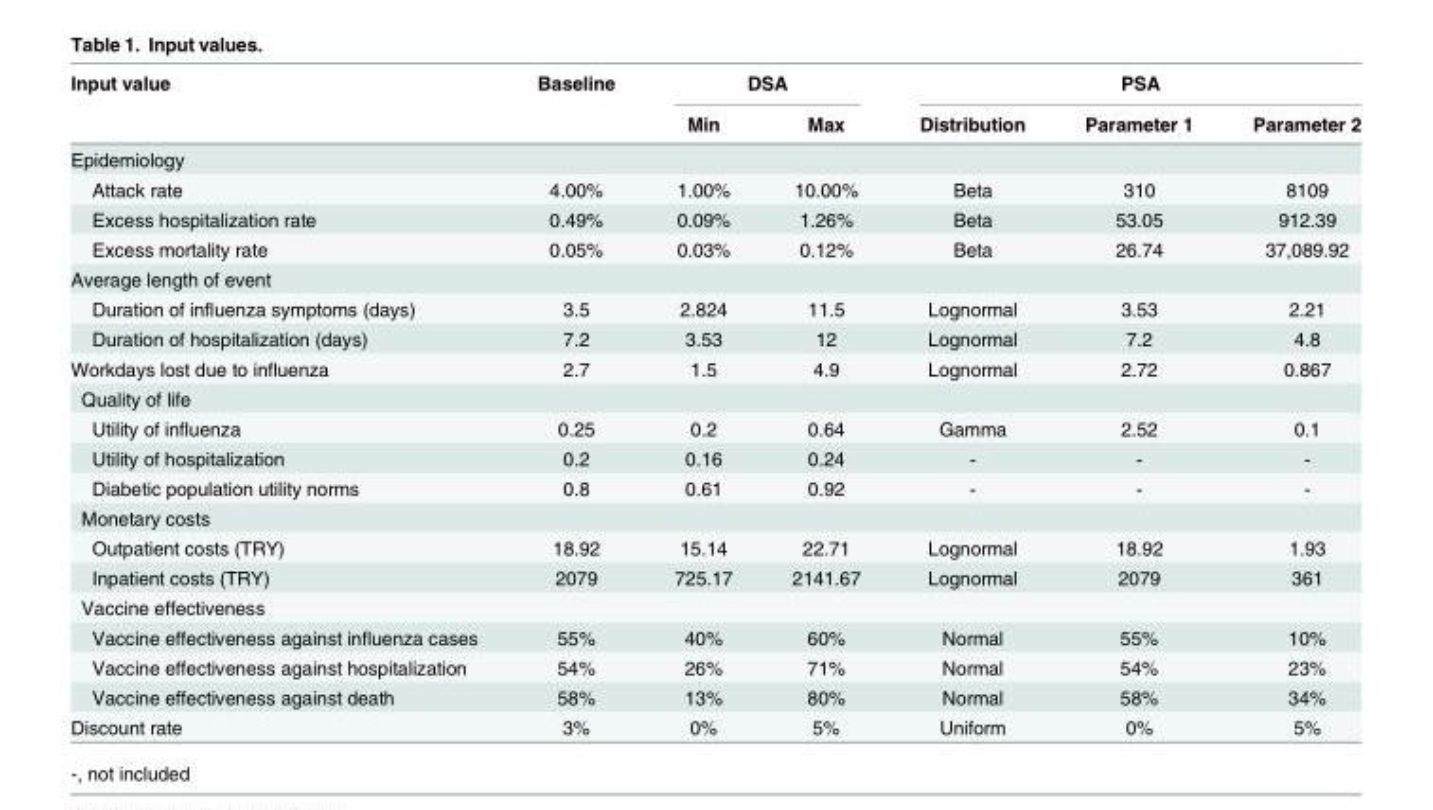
<table><thead><tr><td rowspan="2">Input value</td><td rowspan="2">Baseline</td><td colspan="2">DSA</td><td colspan="3">PSA</td></tr><tr><td>Min</td><td>Max</td><td>Distribution</td><td>Parameter 1</td><td>Parameter 2</td></tr></thead><tbody><tr><td colspan="7">Epidemiology</td></tr><tr><td>Attack rate</td><td>4.00%</td><td>1.00%</td><td>10.00%</td><td>Beta</td><td>310</td><td>8109</td></tr><tr><td>Excess hospitalization rate</td><td>0.49%</td><td>0.09%</td><td>1.26%</td><td>Beta</td><td>53.05</td><td>912.39</td></tr><tr><td>Excess mortality rate</td><td>0.05%</td><td>0.03%</td><td>0.12%</td><td>Beta</td><td>26.74</td><td>37,089.92</td></tr><tr><td colspan="7">Average length of event</td></tr><tr><td>Duration of influenza symptoms (days)</td><td>3.5</td><td>2.824</td><td>11.5</td><td>Lognormal</td><td>3.53</td><td>2.21</td></tr><tr><td>Duration of hospitalization (days)</td><td>7.2</td><td>3.53</td><td>12</td><td>Lognormal</td><td>7.2</td><td>4.8</td></tr><tr><td>Workdays lost due to influenza</td><td>2.7</td><td>1.5</td><td>4.9</td><td>Lognormal</td><td>2.72</td><td>0.867</td></tr><tr><td colspan="7">Quality of life</td></tr><tr><td>Utility of influenza</td><td>0.25</td><td>0.2</td><td>0.64</td><td>Gamma</td><td>2.52</td><td>0.1</td></tr><tr><td>Utility of hospitalization</td><td>0.2</td><td>0.16</td><td>0.24</td><td>-</td><td>-</td><td>-</td></tr><tr><td>Diabetic population utility norms</td><td>0.8</td><td>0.61</td><td>0.92</td><td>-</td><td>-</td><td>-</td></tr><tr><td colspan="7">Monetary costs</td></tr><tr><td>Outpatient costs (TRY)</td><td>18.92</td><td>15.14</td><td>22.71</td><td>Lognormal</td><td>18.92</td><td>1.93</td></tr><tr><td>Inpatient costs (TRY)</td><td>2079</td><td>725.17</td><td>2141.67</td><td>Lognormal</td><td>2079</td><td>361</td></tr><tr><td colspan="7">Vaccine effectiveness</td></tr><tr><td>Vaccine effectiveness against influenza cases</td><td>55%</td><td>40%</td><td>60%</td><td>Normal</td><td>55%</td><td>10%</td></tr><tr><td>Vaccine effectiveness against hospitalization</td><td>54%</td><td>26%</td><td>71%</td><td>Normal</td><td>54%</td><td>23%</td></tr><tr><td>Vaccine effectiveness against death</td><td>58%</td><td>13%</td><td>80%</td><td>Normal</td><td>58%</td><td>34%</td></tr><tr><td>Discount rate</td><td>3%</td><td>0%</td><td>5%</td><td>Uniform</td><td>0%</td><td>5%</td></tr></tbody></table>